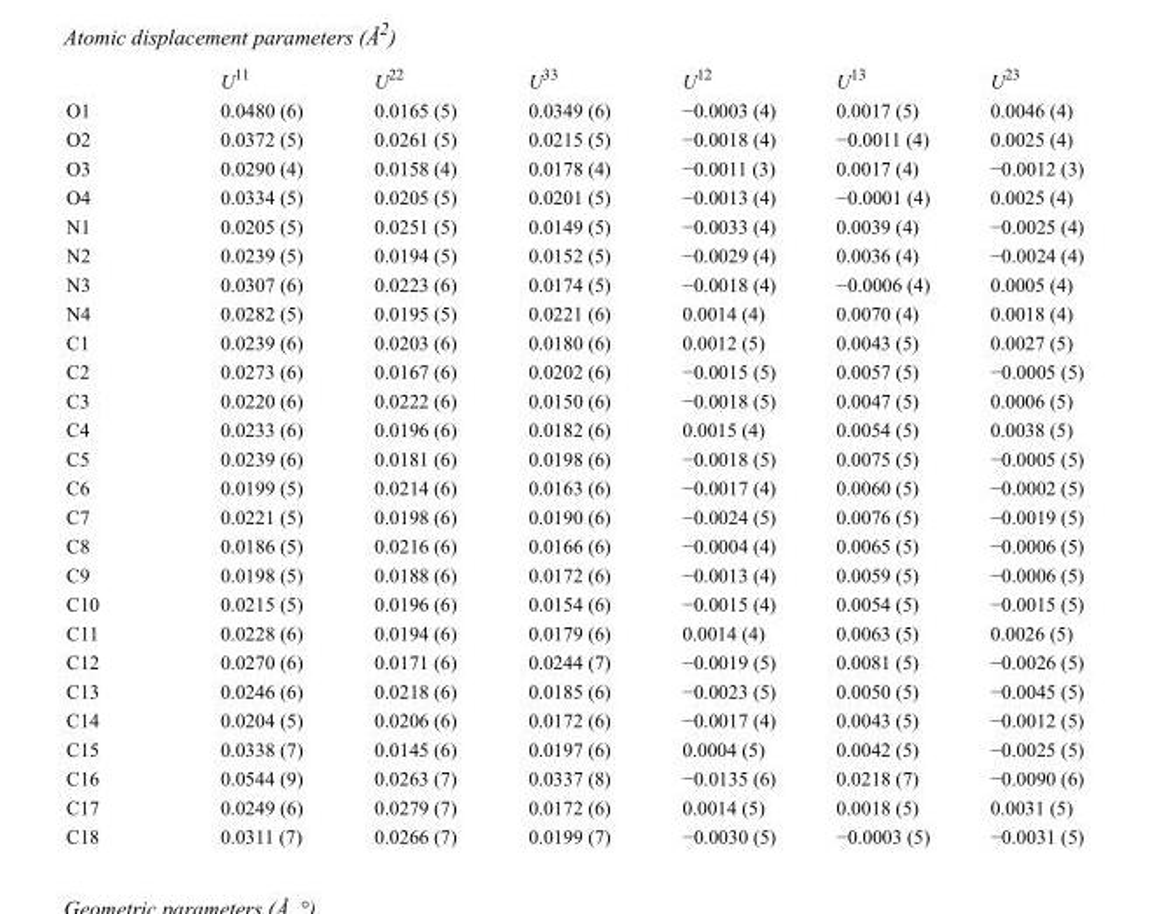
<table><thead><tr><td></td><td>U<sup>11</sup></td><td>U<sup>22</sup></td><td>U<sup>33</sup></td><td>U<sup>12</sup></td><td>U<sup>13</sup></td><td>U<sup>23</sup></td></tr></thead><tbody><tr><td>O1</td><td>0.0480 (6)</td><td>0.0165 (5)</td><td>0.0349 (6)</td><td>−0.0003 (4)</td><td>0.0017 (5)</td><td>0.0046 (4)</td></tr><tr><td>O2</td><td>0.0372 (5)</td><td>0.0261 (5)</td><td>0.0215 (5)</td><td>−0.0018 (4)</td><td>−0.0011 (4)</td><td>0.0025 (4)</td></tr><tr><td>O3</td><td>0.0290 (4)</td><td>0.0158 (4)</td><td>0.0178 (4)</td><td>−0.0011 (3)</td><td>0.0017 (4)</td><td>−0.0012 (3)</td></tr><tr><td>O4</td><td>0.0334 (5)</td><td>0.0205 (5)</td><td>0.0201 (5)</td><td>−0.0013 (4)</td><td>−0.0001 (4)</td><td>0.0025 (4)</td></tr><tr><td>N1</td><td>0.0205 (5)</td><td>0.0251 (5)</td><td>0.0149 (5)</td><td>−0.0033 (4)</td><td>0.0039 (4)</td><td>−0.0025 (4)</td></tr><tr><td>N2</td><td>0.0239 (5)</td><td>0.0194 (5)</td><td>0.0152 (5)</td><td>−0.0029 (4)</td><td>0.0036 (4)</td><td>−0.0024 (4)</td></tr><tr><td>N3</td><td>0.0307 (6)</td><td>0.0223 (6)</td><td>0.0174 (5)</td><td>−0.0018 (4)</td><td>−0.0006 (4)</td><td>0.0005 (4)</td></tr><tr><td>N4</td><td>0.0282 (5)</td><td>0.0195 (5)</td><td>0.0221 (6)</td><td>0.0014 (4)</td><td>0.0070 (4)</td><td>0.0018 (4)</td></tr><tr><td>C1</td><td>0.0239 (6)</td><td>0.0203 (6)</td><td>0.0180 (6)</td><td>0.0012 (5)</td><td>0.0043 (5)</td><td>0.0027 (5)</td></tr><tr><td>C2</td><td>0.0273 (6)</td><td>0.0167 (6)</td><td>0.0202 (6)</td><td>−0.0015 (5)</td><td>0.0057 (5)</td><td>−0.0005 (5)</td></tr><tr><td>C3</td><td>0.0220 (6)</td><td>0.0222 (6)</td><td>0.0150 (6)</td><td>−0.0018 (5)</td><td>0.0047 (5)</td><td>0.0006 (5)</td></tr><tr><td>C4</td><td>0.0233 (6)</td><td>0.0196 (6)</td><td>0.0182 (6)</td><td>0.0015 (4)</td><td>0.0054 (5)</td><td>0.0038 (5)</td></tr><tr><td>C5</td><td>0.0239 (6)</td><td>0.0181 (6)</td><td>0.0198 (6)</td><td>−0.0018 (5)</td><td>0.0075 (5)</td><td>−0.0005 (5)</td></tr><tr><td>C6</td><td>0.0199 (5)</td><td>0.0214 (6)</td><td>0.0163 (6)</td><td>−0.0017 (4)</td><td>0.0060 (5)</td><td>−0.0002 (5)</td></tr><tr><td>C7</td><td>0.0221 (5)</td><td>0.0198 (6)</td><td>0.0190 (6)</td><td>−0.0024 (5)</td><td>0.0076 (5)</td><td>−0.0019 (5)</td></tr><tr><td>C8</td><td>0.0186 (5)</td><td>0.0216 (6)</td><td>0.0166 (6)</td><td>−0.0004 (4)</td><td>0.0065 (5)</td><td>−0.0006 (5)</td></tr><tr><td>C9</td><td>0.0198 (5)</td><td>0.0188 (6)</td><td>0.0172 (6)</td><td>−0.0013 (4)</td><td>0.0059 (5)</td><td>−0.0006 (5)</td></tr><tr><td>C10</td><td>0.0215 (5)</td><td>0.0196 (6)</td><td>0.0154 (6)</td><td>−0.0015 (4)</td><td>0.0054 (5)</td><td>−0.0015 (5)</td></tr><tr><td>C11</td><td>0.0228 (6)</td><td>0.0194 (6)</td><td>0.0179 (6)</td><td>0.0014 (4)</td><td>0.0063 (5)</td><td>0.0026 (5)</td></tr><tr><td>C12</td><td>0.0270 (6)</td><td>0.0171 (6)</td><td>0.0244 (7)</td><td>−0.0019 (5)</td><td>0.0081 (5)</td><td>−0.0026 (5)</td></tr><tr><td>C13</td><td>0.0246 (6)</td><td>0.0218 (6)</td><td>0.0185 (6)</td><td>−0.0023 (5)</td><td>0.0050 (5)</td><td>−0.0045 (5)</td></tr><tr><td>C14</td><td>0.0204 (5)</td><td>0.0206 (6)</td><td>0.0172 (6)</td><td>−0.0017 (4)</td><td>0.0043 (5)</td><td>−0.0012 (5)</td></tr><tr><td>C15</td><td>0.0338 (7)</td><td>0.0145 (6)</td><td>0.0197 (6)</td><td>0.0004 (5)</td><td>0.0042 (5)</td><td>−0.0025 (5)</td></tr><tr><td>C16</td><td>0.0544 (9)</td><td>0.0263 (7)</td><td>0.0337 (8)</td><td>−0.0135 (6)</td><td>0.0218 (7)</td><td>−0.0090 (6)</td></tr><tr><td>C17</td><td>0.0249 (6)</td><td>0.0279 (7)</td><td>0.0172 (6)</td><td>0.0014 (5)</td><td>0.0018 (5)</td><td>0.0031 (5)</td></tr><tr><td>C18</td><td>0.0311 (7)</td><td>0.0266 (7)</td><td>0.0199 (7)</td><td>−0.0030 (5)</td><td>−0.0003 (5)</td><td>−0.0031 (5)</td></tr></tbody></table>